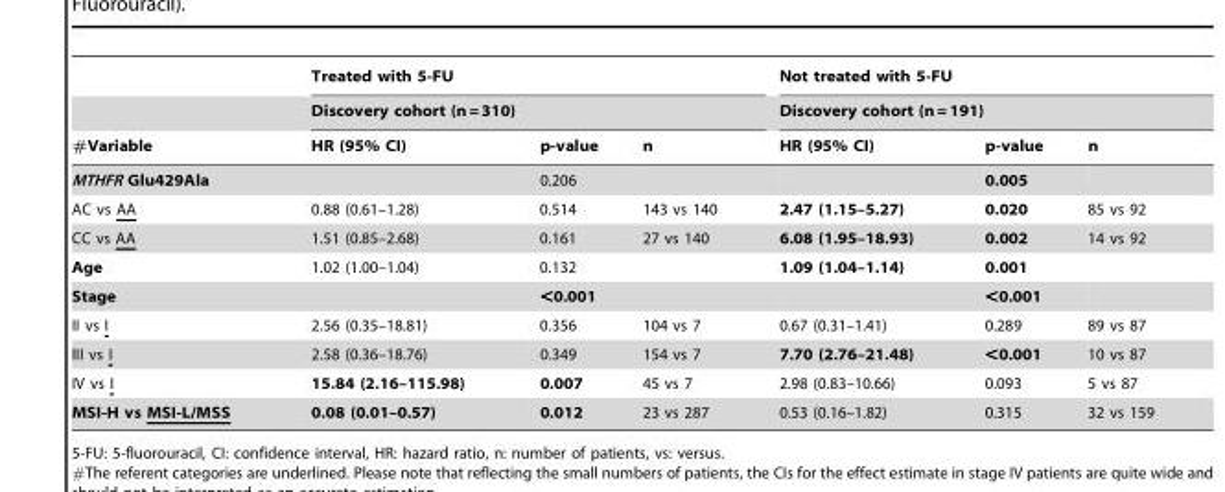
<table><thead><tr><td rowspan="3">#Variable</td><td rowspan="2" colspan="3">Treated with 5-FU Discovery cohort (n = 310)</td><td rowspan="2" colspan="3">Not treated with 5-FU Discovery cohort (n = 191)</td></tr><tr></tr><tr><td>HR (95% CI)</td><td>p-value</td><td>n</td><td>HR (95% CI)</td><td>p-value</td><td>n</td></tr></thead><tbody><tr><td>MTHFR Glu429Ala</td><td></td><td>0.206</td><td></td><td></td><td>0.005</td><td></td></tr><tr><td>AC vs AA</td><td>0.88 (0.61–1.28)</td><td>0.514</td><td>143 vs 140</td><td>2.47 (1.15–5.27)</td><td>0.020</td><td>85 vs 92</td></tr><tr><td>CC vs AA</td><td>1.51 (0.85–2.68)</td><td>0.161</td><td>27 vs 140</td><td>6.08 (1.95–18.93)</td><td>0.002</td><td>14 vs 92</td></tr><tr><td>Age</td><td>1.02 (1.00–1.04)</td><td>0.132</td><td></td><td>1.09 (1.04–1.14)</td><td>0.001</td><td></td></tr><tr><td>Stage</td><td></td><td>&lt;0.001</td><td></td><td></td><td>&lt;0.001</td><td></td></tr><tr><td>II vs I</td><td>2.56 (0.35–18.81)</td><td>0.356</td><td>104 vs 7</td><td>0.67 (0.31–1.41)</td><td>0.289</td><td>89 vs 87</td></tr><tr><td>III vs I</td><td>2.58 (0.36–18.76)</td><td>0.349</td><td>154 vs 7</td><td>7.70 (2.76–21.48)</td><td>&lt;0.001</td><td>10 vs 87</td></tr><tr><td>IV vs I</td><td>15.84 (2.16–115.98)</td><td>0.007</td><td>45 vs 7</td><td>2.98 (0.83–10.66)</td><td>0.093</td><td>5 vs 87</td></tr><tr><td>MSI-H vs MSI-L/MSS</td><td>0.08 (0.01–0.57)</td><td>0.012</td><td>23 vs 287</td><td>0.53 (0.16–1.82)</td><td>0.315</td><td>32 vs 159</td></tr></tbody></table>